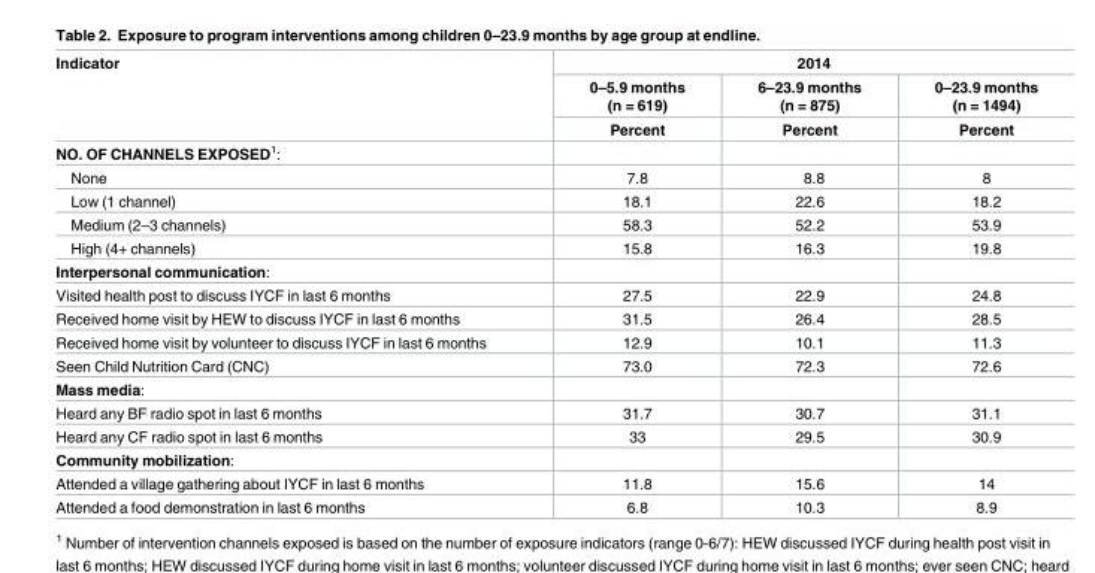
<table><thead><tr><td rowspan="3">Indicator</td><td colspan="3">2014</td></tr><tr><td rowspan="2">0–5.9 months (n = 619) Percent</td><td rowspan="2">6–23.9 months (n = 875) Percent</td><td rowspan="2">0–23.9 months (n = 1494) Percent</td></tr><tr></tr></thead><tbody><tr><td colspan="4">NO. OF CHANNELS EXPOSED<sup>1</sup>:</td></tr><tr><td>None</td><td>7.8</td><td>8.8</td><td>8</td></tr><tr><td>Low (1 channel)</td><td>18.1</td><td>22.6</td><td>18.2</td></tr><tr><td>Medium (2–3 channels)</td><td>58.3</td><td>52.2</td><td>53.9</td></tr><tr><td>High (4+ channels)</td><td>15.8</td><td>16.3</td><td>19.8</td></tr><tr><td colspan="4">Interpersonal communication:</td></tr><tr><td>Visited health post to discuss IYCF in last 6 months</td><td>27.5</td><td>22.9</td><td>24.8</td></tr><tr><td>Received home visit by HEW to discuss IYCF in last 6 months</td><td>31.5</td><td>26.4</td><td>28.5</td></tr><tr><td>Received home visit by volunteer to discuss IYCF in last 6 months</td><td>12.9</td><td>10.1</td><td>11.3</td></tr><tr><td>Seen Child Nutrition Card (CNC)</td><td>73.0</td><td>72.3</td><td>72.6</td></tr><tr><td colspan="4">Mass media:</td></tr><tr><td>Heard any BF radio spot in last 6 months</td><td>31.7</td><td>30.7</td><td>31.1</td></tr><tr><td>Heard any CF radio spot in last 6 months</td><td>33</td><td>29.5</td><td>30.9</td></tr><tr><td colspan="4">Community mobilization:</td></tr><tr><td>Attended a village gathering about IYCF in last 6 months</td><td>11.8</td><td>15.6</td><td>14</td></tr><tr><td>Attended a food demonstration in last 6 months</td><td>6.8</td><td>10.3</td><td>8.9</td></tr></tbody></table>